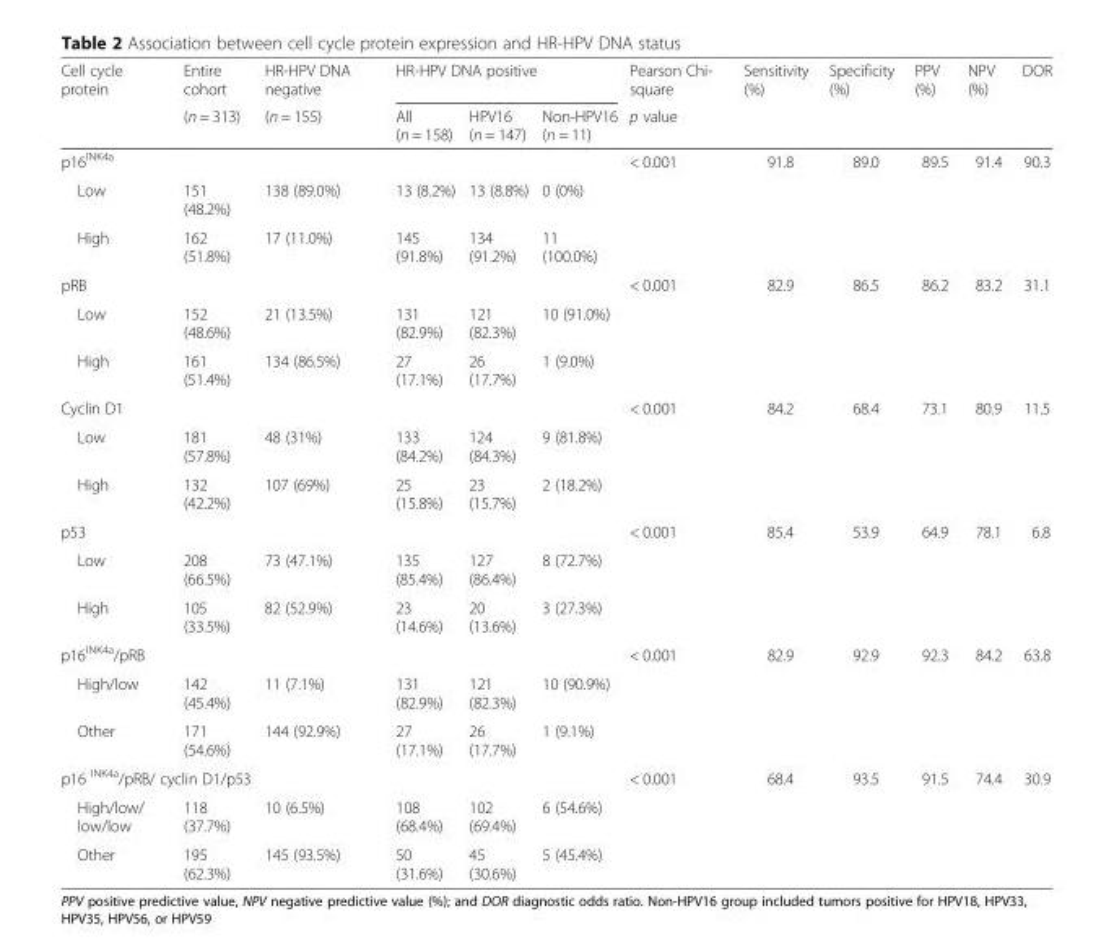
<table><thead><tr><td rowspan="2">Cell cycle protein</td><td rowspan="2">Entire cohort (n = 313)</td><td rowspan="2">HR-HPV DNA negative (n = 155)</td><td colspan="3">HR-HPV DNA positive</td><td rowspan="2">Pearson Chi- square p value</td><td rowspan="2">Sensitivity (%)</td><td rowspan="2">Specificity (%)</td><td rowspan="2">PPV (%)</td><td rowspan="2">NPV (%)</td><td rowspan="2">DOR</td></tr><tr><td>All (n = 158)</td><td>HPV16 (n = 147)</td><td>Non-HPV16 (n = 11)</td></tr></thead><tbody><tr><td colspan="6">p16<sup>INK4a</sup></td><td rowspan="3">&lt; 0.001</td><td rowspan="3">91.8</td><td rowspan="3">89.0</td><td rowspan="3">89.5</td><td rowspan="3">91.4</td><td rowspan="3">90.3</td></tr><tr><td>Low</td><td>151 (48.2%)</td><td>138 (89.0%)</td><td>13 (8.2%)</td><td>13 (8.8%)</td><td>0 (0%)</td></tr><tr><td>High</td><td>162 (51.8%)</td><td>17 (11.0%)</td><td>145 (91.8%)</td><td>134 (91.2%)</td><td>11 (100.0%)</td></tr><tr><td colspan="6">pRB</td><td rowspan="3">&lt; 0.001</td><td rowspan="3">82.9</td><td rowspan="3">86.5</td><td rowspan="3">86.2</td><td rowspan="3">83.2</td><td rowspan="3">31.1</td></tr><tr><td>Low</td><td>152 (48.6%)</td><td>21 (13.5%)</td><td>131 (82.9%)</td><td>121 (82.3%)</td><td>10 (91.0%)</td></tr><tr><td>High</td><td>161 (51.4%)</td><td>134 (86.5%)</td><td>27 (17.1%)</td><td>26 (17.7%)</td><td>1 (9.0%)</td></tr><tr><td colspan="6">Cyclin D1</td><td rowspan="3">&lt; 0.001</td><td rowspan="3">84.2</td><td rowspan="3">68.4</td><td rowspan="3">73.1</td><td rowspan="3">80.9</td><td rowspan="3">11.5</td></tr><tr><td>Low</td><td>181 (57.8%)</td><td>48 (31%)</td><td>133 (84.2%)</td><td>124 (84.3%)</td><td>9 (81.8%)</td></tr><tr><td>High</td><td>132 (42.2%)</td><td>107 (69%)</td><td>25 (15.8%)</td><td>23 (15.7%)</td><td>2 (18.2%)</td></tr><tr><td colspan="6">p53</td><td rowspan="3">&lt; 0.001</td><td rowspan="3">85.4</td><td rowspan="3">53.9</td><td rowspan="3">64.9</td><td rowspan="3">78.1</td><td rowspan="3">6.8</td></tr><tr><td>Low</td><td>208 (66.5%)</td><td>73 (47.1%)</td><td>135 (85.4%)</td><td>127 (86.4%)</td><td>8 (72.7%)</td></tr><tr><td>High</td><td>105 (33.5%)</td><td>82 (52.9%)</td><td>23 (14.6%)</td><td>20 (13.6%)</td><td>3 (27.3%)</td></tr><tr><td colspan="6">p16<sup>INK4a</sup>/pRB</td><td rowspan="3">&lt; 0.001</td><td rowspan="3">82.9</td><td rowspan="3">92.9</td><td rowspan="3">92.3</td><td rowspan="3">84.2</td><td rowspan="3">63.8</td></tr><tr><td>High/low</td><td>142 (45.4%)</td><td>11 (7.1%)</td><td>131 (82.9%)</td><td>121 (82.3%)</td><td>10 (90.9%)</td></tr><tr><td>Other</td><td>171 (54.6%)</td><td>144 (92.9%)</td><td>27 (17.1%)</td><td>26 (17.7%)</td><td>1 (9.1%)</td></tr><tr><td colspan="6">p16 <sup>INK4a</sup>/pRB/ cyclin D1/p53</td><td rowspan="3">&lt; 0.001</td><td rowspan="3">68.4</td><td rowspan="3">93.5</td><td rowspan="3">91.5</td><td rowspan="3">74.4</td><td rowspan="3">30.9</td></tr><tr><td>High/low/ low/low</td><td>118 (37.7%)</td><td>10 (6.5%)</td><td>108 (68.4%)</td><td>102 (69.4%)</td><td>6 (54.6%)</td></tr><tr><td>Other</td><td>195 (62.3%)</td><td>145 (93.5%)</td><td>50 (31.6%)</td><td>45 (30.6%)</td><td>5 (45.4%)</td></tr></tbody></table>